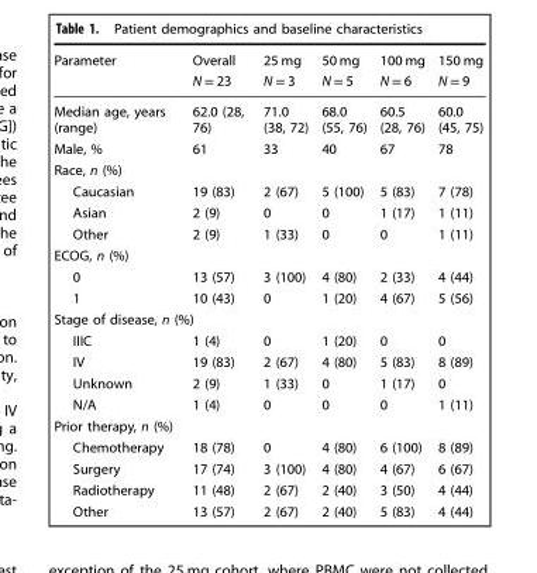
<table><thead><tr><td rowspan="2">Parameter</td><td rowspan="2">Overall N = 23</td><td rowspan="2">25 mg N = 3</td><td rowspan="2">50 mg N = 5</td><td rowspan="2">100 mg N = 6</td><td rowspan="2">150 mg N = 9</td></tr><tr></tr></thead><tbody><tr><td>Median age, years (range)</td><td>62.0 (28, 76)</td><td>71.0 (38, 72)</td><td>68.0 (55, 76)</td><td>60.5 (28, 76)</td><td>60.0 (45, 75)</td></tr><tr><td>Male, %</td><td>61</td><td>33</td><td>40</td><td>67</td><td>78</td></tr><tr><td colspan="6">Race, n (%)</td></tr><tr><td>Caucasian</td><td>19 (83)</td><td>2 (67)</td><td>5 (100)</td><td>5 (83)</td><td>7 (78)</td></tr><tr><td>Asian</td><td>2 (9)</td><td>0</td><td>0</td><td>1 (17)</td><td>1 (11)</td></tr><tr><td>Other</td><td>2 (9)</td><td>1 (33)</td><td>0</td><td>0</td><td>1 (11)</td></tr><tr><td colspan="6">ECOG, n (%)</td></tr><tr><td>0</td><td>13 (57)</td><td>3 (100)</td><td>4 (80)</td><td>2 (33)</td><td>4 (44)</td></tr><tr><td>1</td><td>10 (43)</td><td>0</td><td>1 (20)</td><td>4 (67)</td><td>5 (56)</td></tr><tr><td colspan="6">Stage of disease, n (%)</td></tr><tr><td>IIIC</td><td>1 (4)</td><td>0</td><td>1 (20)</td><td>0</td><td>0</td></tr><tr><td>IV</td><td>19 (83)</td><td>2 (67)</td><td>4 (80)</td><td>5 (83)</td><td>8 (89)</td></tr><tr><td>Unknown</td><td>2 (9)</td><td>1 (33)</td><td>0</td><td>1 (17)</td><td>0</td></tr><tr><td>N/A</td><td>1 (4)</td><td>0</td><td>0</td><td>0</td><td>1 (11)</td></tr><tr><td colspan="6">Prior therapy, n (%)</td></tr><tr><td>Chemotherapy</td><td>18 (78)</td><td>0</td><td>4 (80)</td><td>6 (100)</td><td>8 (89)</td></tr><tr><td>Surgery</td><td>17 (74)</td><td>3 (100)</td><td>4 (80)</td><td>4 (67)</td><td>6 (67)</td></tr><tr><td>Radiotherapy</td><td>11 (48)</td><td>2 (67)</td><td>2 (40)</td><td>3 (50)</td><td>4 (44)</td></tr><tr><td>Other</td><td>13 (57)</td><td>2 (67)</td><td>2 (40)</td><td>5 (83)</td><td>4 (44)</td></tr></tbody></table>